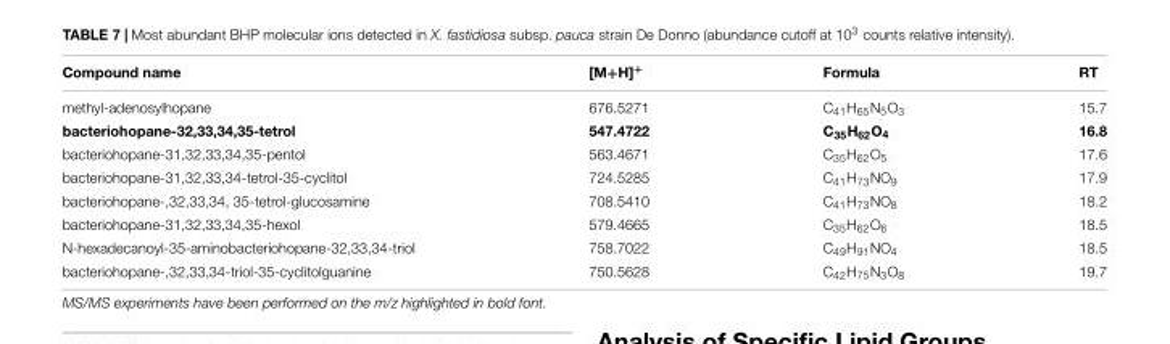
<table><thead><tr><td>Compound name</td><td>[M+H]<sup>+</sup></td><td>Formula</td><td>RT</td></tr></thead><tbody><tr><td>methyl-adenosylhopane</td><td>676.5271</td><td>C<sub>41</sub>H<sub>65</sub>N<sub>5</sub>O<sub>3</sub></td><td>15.7</td></tr><tr><td>bacteriohopane-32,33,34,35-tetrol</td><td>547.4722</td><td>C<sub>35</sub>H<sub>62</sub>O<sub>4</sub></td><td>16.8</td></tr><tr><td>bacteriohopane-31,32,33,34,35-pentol</td><td>563.4671</td><td>C<sub>35</sub>H<sub>62</sub>O<sub>5</sub></td><td>17.6</td></tr><tr><td>bacteriohopane-31,32,33,34-tetrol-35-cyclitol</td><td>724.5285</td><td>C<sub>41</sub>H<sub>73</sub>NO<sub>9</sub></td><td>17.9</td></tr><tr><td>bacteriohopane-,32,33,34, 35-tetrol-glucosamine</td><td>708.5410</td><td>C<sub>41</sub>H<sub>73</sub>NO<sub>8</sub></td><td>18.2</td></tr><tr><td>bacteriohopane-31,32,33,34,35-hexol</td><td>579.4665</td><td>C<sub>35</sub>H<sub>62</sub>O<sub>6</sub></td><td>18.5</td></tr><tr><td>N-hexadecanoyl-35-aminobacteriohopane-32,33,34-triol</td><td>758.7022</td><td>C<sub>49</sub>H<sub>91</sub>NO<sub>4</sub></td><td>18.5</td></tr><tr><td>bacteriohopane-,32,33,34-triol-35-cyclitolguanine</td><td>750.5628</td><td>C<sub>42</sub>H<sub>75</sub>N<sub>3</sub>O<sub>8</sub></td><td>19.7</td></tr></tbody></table>